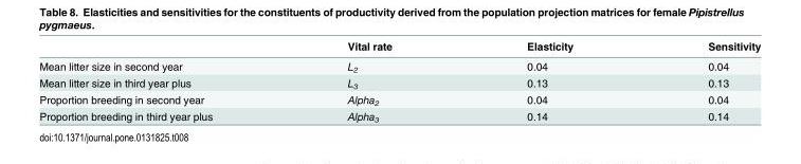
<table><thead><tr><td></td><td>Vital rate</td><td>Elasticity</td><td>Sensitivity</td></tr></thead><tbody><tr><td>Mean litter size in second year</td><td>L<sub>2</sub></td><td>0.04</td><td>0.04</td></tr><tr><td>Mean litter size in third year plus</td><td>L<sub>3</sub></td><td>0.13</td><td>0.13</td></tr><tr><td>Proportion breeding in second year</td><td>Alpha<sub>2</sub></td><td>0.04</td><td>0.04</td></tr><tr><td>Proportion breeding in third year plus</td><td>Alpha<sub>3</sub></td><td>0.14</td><td>0.14</td></tr></tbody></table>